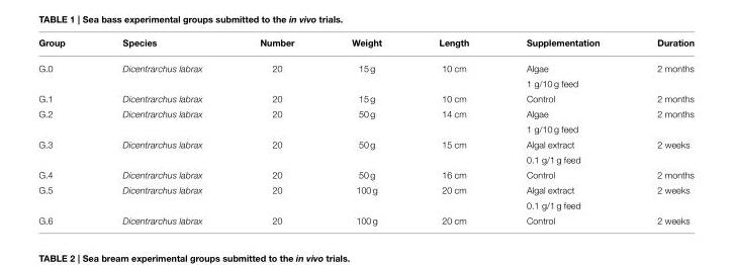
<table><thead><tr><td>Group</td><td>Species</td><td>Number</td><td>Weight</td><td>Length</td><td>Supplementation</td><td>Duration</td></tr></thead><tbody><tr><td rowspan="2">G.0</td><td>Dicentrarchus labrax</td><td>20</td><td>15 g</td><td>10 cm</td><td>Algae</td><td>2 months</td></tr><tr><td></td><td></td><td></td><td></td><td>1 g/10 g feed</td><td></td></tr><tr><td>G.1</td><td>Dicentrarchus labrax</td><td>20</td><td>15 g</td><td>10 cm</td><td>Control</td><td>2 months</td></tr><tr><td rowspan="2">G.2</td><td>Dicentrarchus labrax</td><td>20</td><td>50 g</td><td>14 cm</td><td>Algae</td><td>2 months</td></tr><tr><td></td><td></td><td></td><td></td><td>1 g/10 g feed</td><td></td></tr><tr><td rowspan="2">G.3</td><td>Dicentrarchus labrax</td><td>20</td><td>50 g</td><td>15 cm</td><td>Algal extract</td><td>2 weeks</td></tr><tr><td></td><td></td><td></td><td></td><td>0.1 g/1 g feed</td><td></td></tr><tr><td>G.4</td><td>Dicentrarchus labrax</td><td>20</td><td>50 g</td><td>16 cm</td><td>Control</td><td>2 months</td></tr><tr><td rowspan="2">G.5</td><td>Dicentrarchus labrax</td><td>20</td><td>100 g</td><td>20 cm</td><td>Algal extract</td><td>2 weeks</td></tr><tr><td></td><td></td><td></td><td></td><td>0.1 g/1 g feed</td><td></td></tr><tr><td>G.6</td><td>Dicentrarchus labrax</td><td>20</td><td>100 g</td><td>20 cm</td><td>Control</td><td>2 weeks</td></tr></tbody></table>